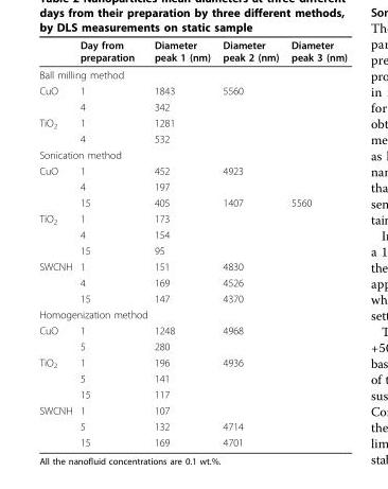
<table><thead><tr><td></td><td>Day from preparation</td><td>Diameter peak 1 (nm)</td><td>Diameter peak 2 (nm)</td><td>Diameter peak 3 (nm)</td></tr></thead><tbody><tr><td colspan="5">Ball milling method</td></tr><tr><td rowspan="2">CuO</td><td>1</td><td>1843</td><td>5560</td><td></td></tr><tr><td>4</td><td>342</td><td></td><td></td></tr><tr><td rowspan="2">TiO<sub>2</sub></td><td>1</td><td>1281</td><td></td><td></td></tr><tr><td>4</td><td>532</td><td></td><td></td></tr><tr><td colspan="5">Sonication method</td></tr><tr><td rowspan="3">CuO</td><td>1</td><td>452</td><td>4923</td><td></td></tr><tr><td>4</td><td>197</td><td></td><td></td></tr><tr><td>15</td><td>405</td><td>1407</td><td>5560</td></tr><tr><td rowspan="3">TiO<sub>2</sub></td><td>1</td><td>173</td><td></td><td></td></tr><tr><td>4</td><td>154</td><td></td><td></td></tr><tr><td>15</td><td>95</td><td></td><td></td></tr><tr><td rowspan="3">SWCNH</td><td>1</td><td>151</td><td>4830</td><td></td></tr><tr><td>4</td><td>169</td><td>4526</td><td></td></tr><tr><td>15</td><td>147</td><td>4370</td><td></td></tr><tr><td colspan="5">Homogenization method</td></tr><tr><td rowspan="2">CuO</td><td>1</td><td>1248</td><td>4968</td><td></td></tr><tr><td>5</td><td>280</td><td></td><td></td></tr><tr><td rowspan="3">TiO<sub>2</sub></td><td>1</td><td>196</td><td>4936</td><td></td></tr><tr><td>5</td><td>141</td><td></td><td></td></tr><tr><td>15</td><td>117</td><td></td><td></td></tr><tr><td rowspan="3">SWCNH</td><td>1</td><td>107</td><td></td><td></td></tr><tr><td>5</td><td>132</td><td>4714</td><td></td></tr><tr><td>15</td><td>169</td><td>4701</td><td></td></tr></tbody></table>